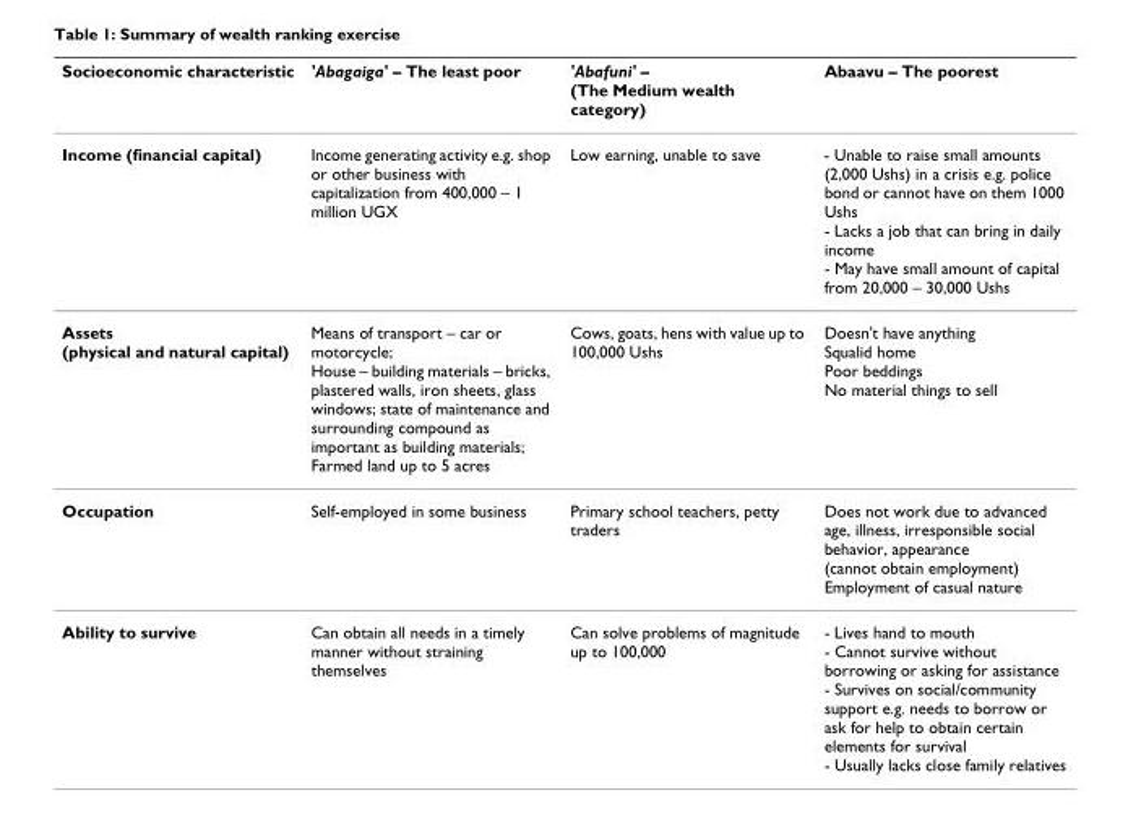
<table><thead><tr><td>Socioeconomic characteristic</td><td>&#x27;Abagaiga&#x27; – The least poor</td><td>&#x27;Abafuni&#x27; – (The Medium wealth category)</td><td>Abaavu – The poorest</td></tr></thead><tbody><tr><td>Income (financial capital)</td><td>Income generating activity e.g. shop or other business with capitalization from 400,000 – 1 million UGX</td><td>Low earning, unable to save</td><td>- Unable to raise small amounts (2,000 Ushs) in a crisis e.g. police bond or cannot have on them 1000 Ushs - Lacks a job that can bring in daily income - May have small amount of capital from 20,000 – 30,000 Ushs</td></tr><tr><td>Assets (physical and natural capital)</td><td>Means of transport – car or motorcycle; House – building materials – bricks, plastered walls, iron sheets, glass windows; state of maintenance and surrounding compound as important as building materials; Farmed land up to 5 acres</td><td>Cows, goats, hens with value up to 100,000 Ushs</td><td>Doesn&#x27;t have anything Squalid home Poor beddings No material things to sell</td></tr><tr><td>Occupation</td><td>Self-employed in some business</td><td>Primary school teachers, petty traders</td><td>Does not work due to advanced age, illness, irresponsible social behavior, appearance (cannot obtain employment) Employment of casual nature</td></tr><tr><td>Ability to survive</td><td>Can obtain all needs in a timely manner without straining themselves</td><td>Can solve problems of magnitude up to 100,000</td><td>- Lives hand to mouth - Cannot survive without borrowing or asking for assistance - Survives on social/community support e.g. needs to borrow or ask for help to obtain certain elements for survival - Usually lacks close family relatives</td></tr></tbody></table>